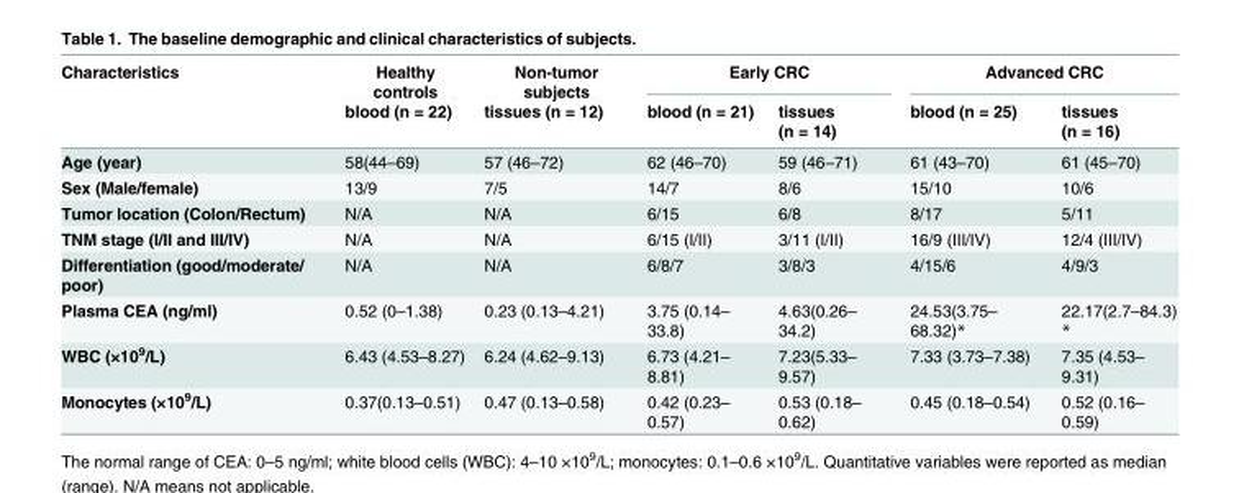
<table><thead><tr><td rowspan="2">Characteristics</td><td rowspan="2">Healthy controls blood (n = 22)</td><td rowspan="2">Non-tumor subjects tissues (n = 12)</td><td colspan="2">Early CRC</td><td colspan="2">Advanced CRC</td></tr><tr><td>blood (n = 21)</td><td>tissues (n = 14)</td><td>blood (n = 25)</td><td>tissues (n = 16)</td></tr></thead><tbody><tr><td>Age (year)</td><td>58(44–69)</td><td>57 (46–72)</td><td>62 (46–70)</td><td>59 (46–71)</td><td>61 (43–70)</td><td>61 (45–70)</td></tr><tr><td>Sex (Male/female)</td><td>13/9</td><td>7/5</td><td>14/7</td><td>8/6</td><td>15/10</td><td>10/6</td></tr><tr><td>Tumor location (Colon/Rectum)</td><td>N/A</td><td>N/A</td><td>6/15</td><td>6/8</td><td>8/17</td><td>5/11</td></tr><tr><td>TNM stage (I/II and III/IV)</td><td>N/A</td><td>N/A</td><td>6/15 (I/II)</td><td>3/11 (I/II)</td><td>16/9 (III/IV)</td><td>12/4 (III/IV)</td></tr><tr><td>Differentiation (good/moderate/ poor)</td><td>N/A</td><td>N/A</td><td>6/8/7</td><td>3/8/3</td><td>4/15/6</td><td>4/9/3</td></tr><tr><td>Plasma CEA (ng/ml)</td><td>0.52 (0–1.38)</td><td>0.23 (0.13–4.21)</td><td>3.75 (0.14– 33.8)</td><td>4.63(0.26– 34.2)</td><td>24.53(3.75– 68.32)*</td><td>22.17(2.7–84.3) *</td></tr><tr><td>WBC (×10<sup>9</sup>/L)</td><td>6.43 (4.53–8.27)</td><td>6.24 (4.62–9.13)</td><td>6.73 (4.21– 8.81)</td><td>7.23(5.33– 9.57)</td><td>7.33 (3.73–7.38)</td><td>7.35 (4.53– 9.31)</td></tr><tr><td>Monocytes (×10<sup>9</sup>/L)</td><td>0.37(0.13–0.51)</td><td>0.47 (0.13–0.58)</td><td>0.42 (0.23– 0.57)</td><td>0.53 (0.18– 0.62)</td><td>0.45 (0.18–0.54)</td><td>0.52 (0.16– 0.59)</td></tr></tbody></table>